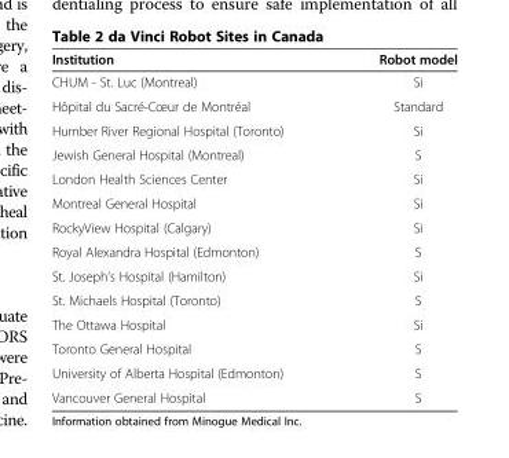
<table><thead><tr><td>Institution</td><td>Robot model</td></tr></thead><tbody><tr><td>CHUM - St. Luc (Montreal)</td><td>Si</td></tr><tr><td>Hôpital du Sacré-Cœur de Montréal</td><td>Standard</td></tr><tr><td>Humber River Regional Hospital (Toronto)</td><td>Si</td></tr><tr><td>Jewish General Hospital (Montreal)</td><td>S</td></tr><tr><td>London Health Sciences Center</td><td>Si</td></tr><tr><td>Montreal General Hospital</td><td>Si</td></tr><tr><td>RockyView Hospital (Calgary)</td><td>Si</td></tr><tr><td>Royal Alexandra Hospital (Edmonton)</td><td>S</td></tr><tr><td>St. Joseph’s Hospital (Hamilton)</td><td>Si</td></tr><tr><td>St. Michaels Hospital (Toronto)</td><td>S</td></tr><tr><td>The Ottawa Hospital</td><td>Si</td></tr><tr><td>Toronto General Hospital</td><td>S</td></tr><tr><td>University of Alberta Hospital (Edmonton)</td><td>S</td></tr><tr><td>Vancouver General Hospital</td><td>S</td></tr></tbody></table>